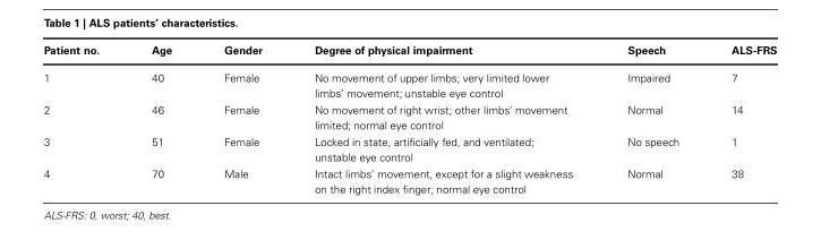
<table><thead><tr><td>Patient no.</td><td>Age</td><td>Gender</td><td>Degree of physical impairment</td><td>Speech</td><td>ALS-FRS</td></tr></thead><tbody><tr><td>1</td><td>40</td><td>Female</td><td>No movement of upper limbs; very limited lower limbs’ movement; unstable eye control</td><td>Impaired</td><td>7</td></tr><tr><td>2</td><td>46</td><td>Female</td><td>No movement of right wrist; other limbs’ movement limited; normal eye control</td><td>Normal</td><td>14</td></tr><tr><td>3</td><td>51</td><td>Female</td><td>Locked in state, artificially fed, and ventilated; unstable eye control</td><td>No speech</td><td>1</td></tr><tr><td>4</td><td>70</td><td>Male</td><td>Intact limbs’ movement, except for a slight weakness on the right index finger; normal eye control</td><td>Normal</td><td>38</td></tr></tbody></table>